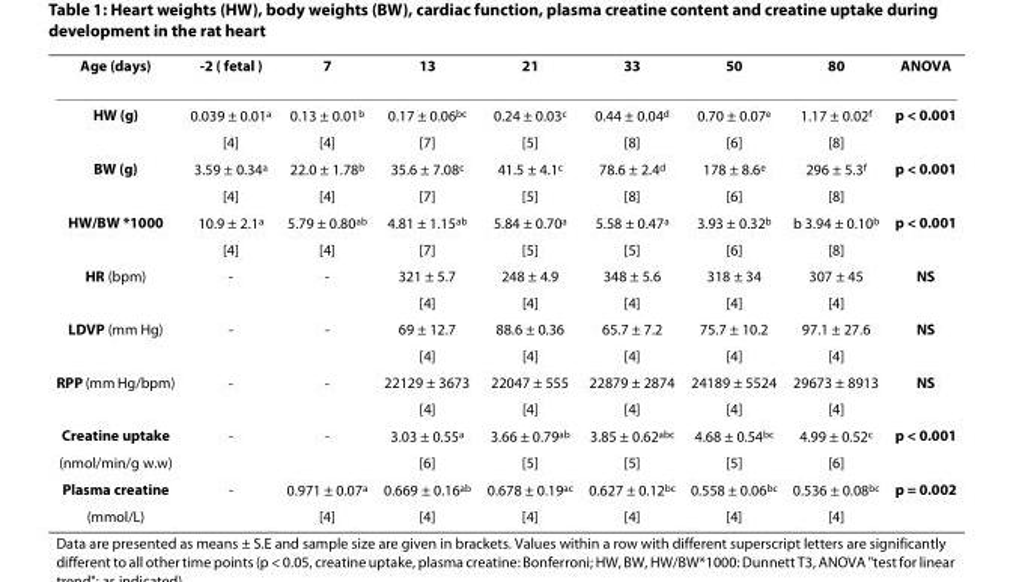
<table><thead><tr><td>Age (days)</td><td>-2 ( fetal )</td><td>7</td><td>13</td><td>21</td><td>33</td><td>50</td><td>80</td><td>ANOVA</td></tr></thead><tbody><tr><td rowspan="2">HW (g)</td><td>0.039 ± 0.01<sup>a</sup></td><td>0.13 ± 0.01<sup>b</sup></td><td>0.17 ± 0.06<sup>bc</sup></td><td>0.24 ± 0.03<sup>c</sup></td><td>0.44 ± 0.04<sup>d</sup></td><td>0.70 ± 0.07<sup>e</sup></td><td>1.17 ± 0.02<sup>f</sup></td><td>p &lt; 0.001</td></tr><tr><td>[4]</td><td>[4]</td><td>[7]</td><td>[5]</td><td>[8]</td><td>[6]</td><td>[8]</td><td></td></tr><tr><td rowspan="2">BW (g)</td><td>3.59 ± 0.34<sup>a</sup></td><td>22.0 ± 1.78<sup>b</sup></td><td>35.6 ± 7.08<sup>c</sup></td><td>41.5 ± 4.1<sup>c</sup></td><td>78.6 ± 2.4<sup>d</sup></td><td>178 ± 8.6<sup>e</sup></td><td>296 ± 5.3<sup>f</sup></td><td>p &lt; 0.001</td></tr><tr><td>[4]</td><td>[4]</td><td>[7]</td><td>[5]</td><td>[8]</td><td>[6]</td><td>[8]</td><td></td></tr><tr><td rowspan="2">HW/BW *1000</td><td>10.9 ± 2.1<sup>a</sup></td><td>5.79 ± 0.80<sup>ab</sup></td><td>4.81 ± 1.15<sup>ab</sup></td><td>5.84 ± 0.70<sup>a</sup></td><td>5.58 ± 0.47<sup>a</sup></td><td>3.93 ± 0.32<sup>b</sup></td><td>b 3.94 ± 0.10<sup>b</sup></td><td>p &lt; 0.001</td></tr><tr><td>[4]</td><td>[4]</td><td>[7]</td><td>[5]</td><td>[5]</td><td>[6]</td><td>[8]</td><td></td></tr><tr><td rowspan="2">HR (bpm)</td><td>-</td><td>-</td><td>321 ± 5.7</td><td>248 ± 4.9</td><td>348 ± 5.6</td><td>318 ± 34</td><td>307 ± 45</td><td>NS</td></tr><tr><td></td><td></td><td>[4]</td><td>[4]</td><td>[4]</td><td>[4]</td><td>[4]</td><td></td></tr><tr><td rowspan="2">LDVP (mm Hg)</td><td>-</td><td>-</td><td>69 ± 12.7</td><td>88.6 ± 0.36</td><td>65.7 ± 7.2</td><td>75.7 ± 10.2</td><td>97.1 ± 27.6</td><td>NS</td></tr><tr><td></td><td></td><td>[4]</td><td>[4]</td><td>[4]</td><td>[4]</td><td>[4]</td><td></td></tr><tr><td rowspan="2">RPP (mm Hg/bpm)</td><td>-</td><td>-</td><td>22129 ± 3673</td><td>22047 ± 555</td><td>22879 ± 2874</td><td>24189 ± 5524</td><td>29673 ± 8913</td><td>NS</td></tr><tr><td></td><td></td><td>[4]</td><td>[4]</td><td>[4]</td><td>[4]</td><td>[4]</td><td></td></tr><tr><td>Creatine uptake</td><td>-</td><td>-</td><td>3.03 ± 0.55<sup>a</sup></td><td>3.66 ± 0.79<sup>ab</sup></td><td>3.85 ± 0.62<sup>abc</sup></td><td>4.68 ± 0.54<sup>bc</sup></td><td>4.99 ± 0.52<sup>c</sup></td><td>p &lt; 0.001</td></tr><tr><td>(nmol/min/g w.w)</td><td></td><td></td><td>[6]</td><td>[5]</td><td>[5]</td><td>[5]</td><td>[6]</td><td></td></tr><tr><td>Plasma creatine</td><td>-</td><td>0.971 ± 0.07<sup>a</sup></td><td>0.669 ± 0.16<sup>ab</sup></td><td>0.678 ± 0.19<sup>ac</sup></td><td>0.627 ± 0.12<sup>bc</sup></td><td>0.558 ± 0.06<sup>bc</sup></td><td>0.536 ± 0.08<sup>bc</sup></td><td>p = 0.002</td></tr><tr><td>(mmol/L)</td><td></td><td>[4]</td><td>[4]</td><td>[4]</td><td>[4]</td><td>[4]</td><td>[4]</td><td></td></tr></tbody></table>